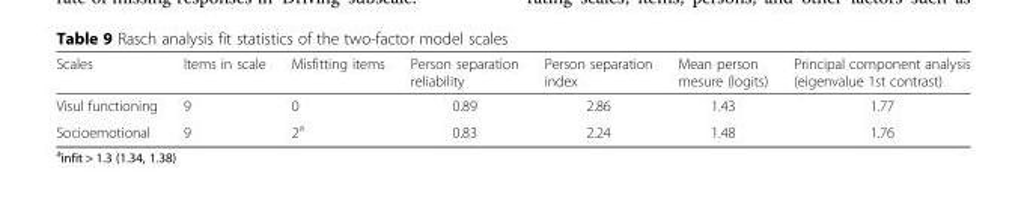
<table><thead><tr><td>Scales</td><td>Items in scale</td><td>Misfitting items</td><td>Person separation reliability</td><td>Person separation index</td><td>Mean person mesure (logits)</td><td>Principal component analysis (eigenvalue 1st contrast)</td></tr></thead><tbody><tr><td>Visul functioning</td><td>9</td><td>0</td><td>0.89</td><td>2.86</td><td>1.43</td><td>1.77</td></tr><tr><td>Socioemotional</td><td>9</td><td>2<sup>a</sup></td><td>0.83</td><td>2.24</td><td>1.48</td><td>1.76</td></tr></tbody></table>